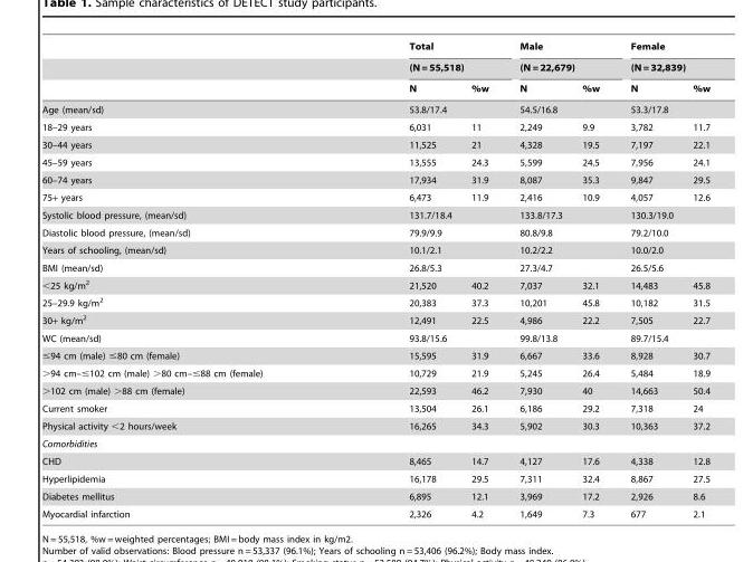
<table><thead><tr><td rowspan="3"></td><td rowspan="2" colspan="2">Total (N = 55,518)</td><td rowspan="2" colspan="2">Male (N = 22,679)</td><td rowspan="2" colspan="2">Female (N = 32,839)</td></tr><tr></tr><tr><td>N</td><td>%w</td><td>N</td><td>%w</td><td>N</td><td>%w</td></tr></thead><tbody><tr><td>Age (mean/sd)</td><td colspan="2">53.8/17.4</td><td colspan="2">54.5/16.8</td><td colspan="2">53.3/17.8</td></tr><tr><td>18–29 years</td><td>6,031</td><td>11</td><td>2,249</td><td>9.9</td><td>3,782</td><td>11.7</td></tr><tr><td>30–44 years</td><td>11,525</td><td>21</td><td>4,328</td><td>19.5</td><td>7,197</td><td>22.1</td></tr><tr><td>45–59 years</td><td>13,555</td><td>24.3</td><td>5,599</td><td>24.5</td><td>7,956</td><td>24.1</td></tr><tr><td>60–74 years</td><td>17,934</td><td>31.9</td><td>8,087</td><td>35.3</td><td>9,847</td><td>29.5</td></tr><tr><td>75+ years</td><td>6,473</td><td>11.9</td><td>2,416</td><td>10.9</td><td>4,057</td><td>12.6</td></tr><tr><td>Systolic blood pressure, (mean/sd)</td><td colspan="2">131.7/18.4</td><td colspan="2">133.8/17.3</td><td colspan="2">130.3/19.0</td></tr><tr><td>Diastolic blood pressure, (mean/sd)</td><td colspan="2">79.9/9.9</td><td colspan="2">80.8/9.8</td><td colspan="2">79.2/10.0</td></tr><tr><td>Years of schooling, (mean/sd)</td><td colspan="2">10.1/2.1</td><td colspan="2">10.2/2.2</td><td colspan="2">10.0/2.0</td></tr><tr><td>BMI (mean/sd)</td><td colspan="2">26.8/5.3</td><td colspan="2">27.3/4.7</td><td colspan="2">26.5/5.6</td></tr><tr><td>&lt;25 kg/m<sup>2</sup></td><td>21,520</td><td>40.2</td><td>7,037</td><td>32.1</td><td>14,483</td><td>45.8</td></tr><tr><td>25–29.9 kg/m<sup>2</sup></td><td>20,383</td><td>37.3</td><td>10,201</td><td>45.8</td><td>10,182</td><td>31.5</td></tr><tr><td>30+ kg/m<sup>2</sup></td><td>12,491</td><td>22.5</td><td>4,986</td><td>22.2</td><td>7,505</td><td>22.7</td></tr><tr><td>WC (mean/sd)</td><td colspan="2">93.8/15.6</td><td colspan="2">99.8/13.8</td><td colspan="2">89.7/15.4</td></tr><tr><td>≤94 cm (male) ≤80 cm (female)</td><td>15,595</td><td>31.9</td><td>6,667</td><td>33.6</td><td>8,928</td><td>30.7</td></tr><tr><td>&gt;94 cm–≤102 cm (male) &gt;80 cm–≤88 cm (female)</td><td>10,729</td><td>21.9</td><td>5,245</td><td>26.4</td><td>5,484</td><td>18.9</td></tr><tr><td>&gt;102 cm (male) &gt;88 cm (female)</td><td>22,593</td><td>46.2</td><td>7,930</td><td>40</td><td>14,663</td><td>50.4</td></tr><tr><td>Current smoker</td><td>13,504</td><td>26.1</td><td>6,186</td><td>29.2</td><td>7,318</td><td>24</td></tr><tr><td>Physical activity &lt;2 hours/week</td><td>16,265</td><td>34.3</td><td>5,902</td><td>30.3</td><td>10,363</td><td>37.2</td></tr><tr><td colspan="7">Comorbidities</td></tr><tr><td>CHD</td><td>8,465</td><td>14.7</td><td>4,127</td><td>17.6</td><td>4,338</td><td>12.8</td></tr><tr><td>Hyperlipidemia</td><td>16,178</td><td>29.5</td><td>7,311</td><td>32.4</td><td>8,867</td><td>27.5</td></tr><tr><td>Diabetes mellitus</td><td>6,895</td><td>12.1</td><td>3,969</td><td>17.2</td><td>2,926</td><td>8.6</td></tr><tr><td>Myocardial infarction</td><td>2,326</td><td>4.2</td><td>1,649</td><td>7.3</td><td>677</td><td>2.1</td></tr></tbody></table>